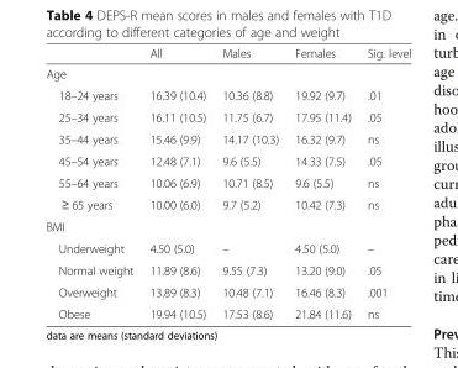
<table><thead><tr><td></td><td>All</td><td>Males</td><td>Females</td><td>Sig. level</td></tr></thead><tbody><tr><td colspan="5">Age</td></tr><tr><td>18–24 years</td><td>16.39 (10.4)</td><td>10.36 (8.8)</td><td>19.92 (9.7)</td><td>.01</td></tr><tr><td>25–34 years</td><td>16.11 (10.5)</td><td>11.75 (6.7)</td><td>17.95 (11.4)</td><td>.05</td></tr><tr><td>35–44 years</td><td>15.46 (9.9)</td><td>14.17 (10.3)</td><td>16.32 (9.7)</td><td>ns</td></tr><tr><td>45–54 years</td><td>12.48 (7.1)</td><td>9.6 (5.5)</td><td>14.33 (7.5)</td><td>.05</td></tr><tr><td>55–64 years</td><td>10.06 (6.9)</td><td>10.71 (8.5)</td><td>9.6 (5.5)</td><td>ns</td></tr><tr><td>≥ 65 years</td><td>10.00 (6.0)</td><td>9.7 (5.2)</td><td>10.42 (7.3)</td><td>ns</td></tr><tr><td colspan="5">BMI</td></tr><tr><td>Underweight</td><td>4.50 (5.0)</td><td>–</td><td>4.50 (5.0)</td><td>–</td></tr><tr><td>Normal weight</td><td>11.89 (8.6)</td><td>9.55 (7.3)</td><td>13.20 (9.0)</td><td>.05</td></tr><tr><td>Overweight</td><td>13.89 (8.3)</td><td>10.48 (7.1)</td><td>16.46 (8.3)</td><td>.001</td></tr><tr><td>Obese</td><td>19.94 (10.5)</td><td>17.53 (8.6)</td><td>21.84 (11.6)</td><td>ns</td></tr></tbody></table>